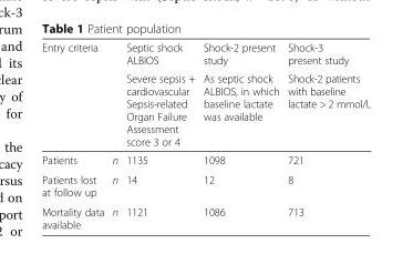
<table><thead><tr><td rowspan="2" colspan="2">Entry criteria</td><td rowspan="3">Septic shock ALBIOS Severe sepsis + cardiovascular Sepsis-related Organ Failure Assessment score 3 or 4 1135</td><td rowspan="3">Shock-2 present study As septic shock ALBIOS, in which baseline lactate was available 1098</td><td rowspan="3">Shock-3 present study Shock-2 patients with baseline lactate &gt; 2 mmol/L 721</td></tr><tr></tr><tr><td>Patients</td><td>n</td></tr></thead><tbody><tr><td>Patients lost at follow up</td><td>n</td><td>14</td><td>12</td><td>8</td></tr><tr><td>Mortality data available</td><td>n</td><td>1121</td><td>1086</td><td>713</td></tr></tbody></table>